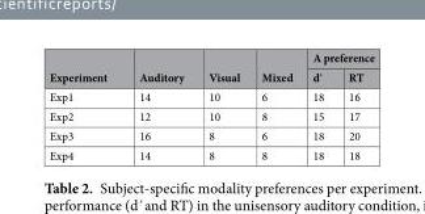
<table><thead><tr><td rowspan="2">Experiment</td><td rowspan="2">Auditory</td><td rowspan="2">Visual</td><td rowspan="2">Mixed</td><td colspan="2">A preference</td></tr><tr><td>dʹ</td><td>RT</td></tr></thead><tbody><tr><td>Exp1</td><td>14</td><td>10</td><td>6</td><td>18</td><td>16</td></tr><tr><td>Exp2</td><td>12</td><td>10</td><td>8</td><td>15</td><td>17</td></tr><tr><td>Exp3</td><td>16</td><td>8</td><td>6</td><td>18</td><td>20</td></tr><tr><td>Exp4</td><td>14</td><td>8</td><td>8</td><td>18</td><td>18</td></tr></tbody></table>